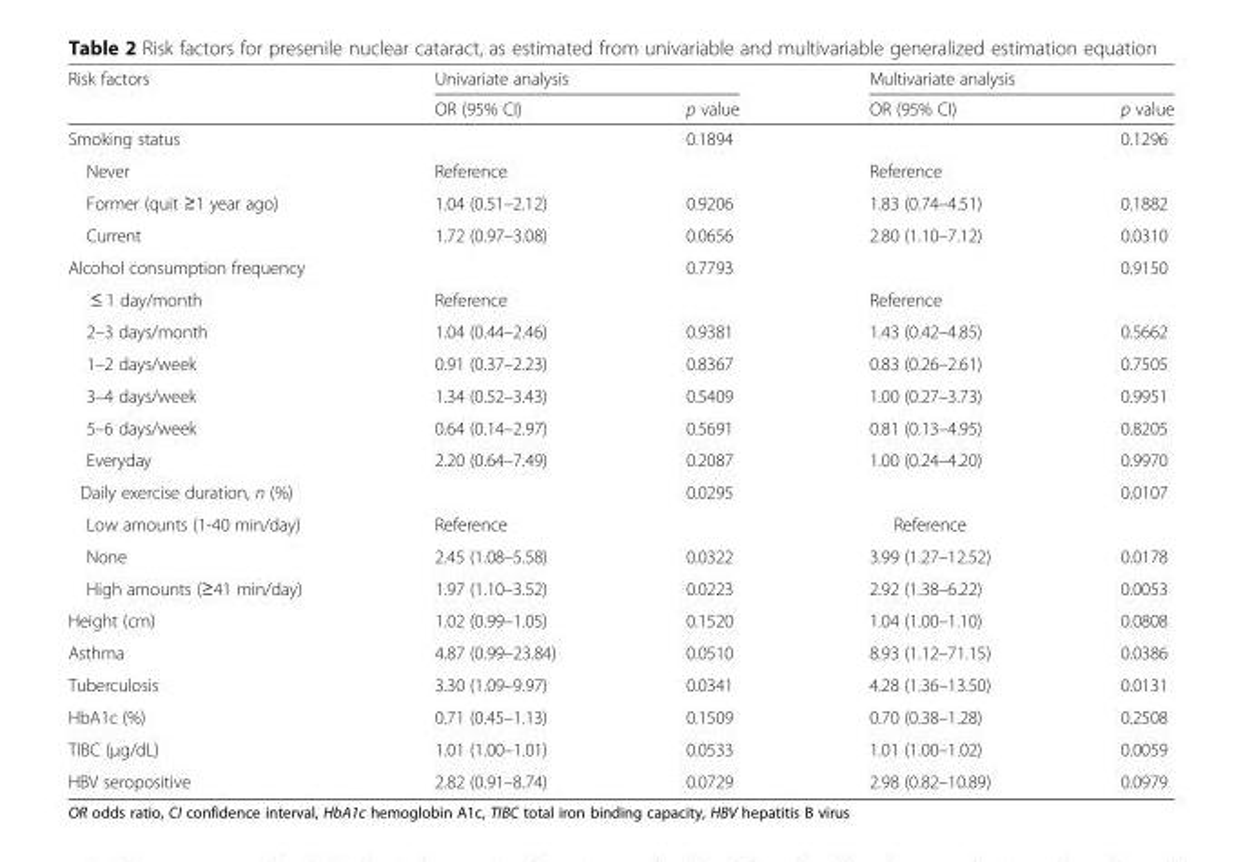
<table><thead><tr><td rowspan="2">Risk factors</td><td colspan="2">Univariate analysis</td><td colspan="2">Multivariate analysis</td></tr><tr><td>OR (95% CI)</td><td>p value</td><td>OR (95% CI)</td><td>p value</td></tr></thead><tbody><tr><td>Smoking status</td><td></td><td>0.1894</td><td></td><td>0.1296</td></tr><tr><td>Never</td><td>Reference</td><td></td><td>Reference</td><td></td></tr><tr><td>Former (quit ≥1 year ago)</td><td>1.04 (0.51–2.12)</td><td>0.9206</td><td>1.83 (0.74–4.51)</td><td>0.1882</td></tr><tr><td>Current</td><td>1.72 (0.97–3.08)</td><td>0.0656</td><td>2.80 (1.10–7.12)</td><td>0.0310</td></tr><tr><td>Alcohol consumption frequency</td><td></td><td>0.7793</td><td></td><td>0.9150</td></tr><tr><td>≤ 1 day/month</td><td>Reference</td><td></td><td>Reference</td><td></td></tr><tr><td>2–3 days/month</td><td>1.04 (0.44–2.46)</td><td>0.9381</td><td>1.43 (0.42–4.85)</td><td>0.5662</td></tr><tr><td>1–2 days/week</td><td>0.91 (0.37–2.23)</td><td>0.8367</td><td>0.83 (0.26–2.61)</td><td>0.7505</td></tr><tr><td>3–4 days/week</td><td>1.34 (0.52–3.43)</td><td>0.5409</td><td>1.00 (0.27–3.73)</td><td>0.9951</td></tr><tr><td>5–6 days/week</td><td>0.64 (0.14–2.97)</td><td>0.5691</td><td>0.81 (0.13–4.95)</td><td>0.8205</td></tr><tr><td>Everyday</td><td>2.20 (0.64–7.49)</td><td>0.2087</td><td>1.00 (0.24–4.20)</td><td>0.9970</td></tr><tr><td>Daily exercise duration, n (%)</td><td></td><td>0.0295</td><td></td><td>0.0107</td></tr><tr><td>Low amounts (1-40 min/day)</td><td>Reference</td><td></td><td>Reference</td><td></td></tr><tr><td>None</td><td>2.45 (1.08–5.58)</td><td>0.0322</td><td>3.99 (1.27–12.52)</td><td>0.0178</td></tr><tr><td>High amounts (≥41 min/day)</td><td>1.97 (1.10–3.52)</td><td>0.0223</td><td>2.92 (1.38–6.22)</td><td>0.0053</td></tr><tr><td>Height (cm)</td><td>1.02 (0.99–1.05)</td><td>0.1520</td><td>1.04 (1.00–1.10)</td><td>0.0808</td></tr><tr><td>Asthma</td><td>4.87 (0.99–23.84)</td><td>0.0510</td><td>8.93 (1.12–71.15)</td><td>0.0386</td></tr><tr><td>Tuberculosis</td><td>3.30 (1.09–9.97)</td><td>0.0341</td><td>4.28 (1.36–13.50)</td><td>0.0131</td></tr><tr><td>HbA1c (%)</td><td>0.71 (0.45–1.13)</td><td>0.1509</td><td>0.70 (0.38–1.28)</td><td>0.2508</td></tr><tr><td>TIBC (μg/dL)</td><td>1.01 (1.00–1.01)</td><td>0.0533</td><td>1.01 (1.00–1.02)</td><td>0.0059</td></tr><tr><td>HBV seropositive</td><td>2.82 (0.91–8.74)</td><td>0.0729</td><td>2.98 (0.82–10.89)</td><td>0.0979</td></tr></tbody></table>